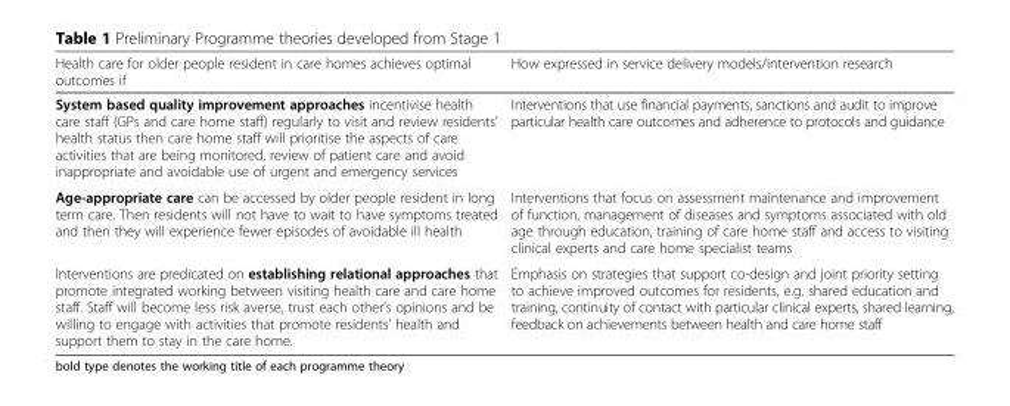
<table><thead><tr><td>Health care for older people resident in care homes achieves optimal outcomes if</td><td>How expressed in service delivery models/intervention research</td></tr></thead><tbody><tr><td>System based quality improvement approaches incentivise health care staff (GPs and care home staff) regularly to visit and review residents’ health status then care home staff will prioritise the aspects of care activities that are being monitored, review of patient care and avoid inappropriate and avoidable use of urgent and emergency services</td><td>Interventions that use financial payments, sanctions and audit to improve particular health care outcomes and adherence to protocols and guidance</td></tr><tr><td>Age-appropriate care can be accessed by older people resident in long term care. Then residents will not have to wait to have symptoms treated and then they will experience fewer episodes of avoidable ill health</td><td>Interventions that focus on assessment maintenance and improvement of function, management of diseases and symptoms associated with old age through education, training of care home staff and access to visiting clinical experts and care home specialist teams</td></tr><tr><td>Interventions are predicated on establishing relational approaches that promote integrated working between visiting health care and care home staff. Staff will become less risk averse, trust each other’s opinions and be willing to engage with activities that promote residents’ health and support them to stay in the care home.</td><td>Emphasis on strategies that support co-design and joint priority setting to achieve improved outcomes for residents, e.g. shared education and training, continuity of contact with particular clinical experts, shared learning, feedback on achievements between health and care home staff</td></tr></tbody></table>